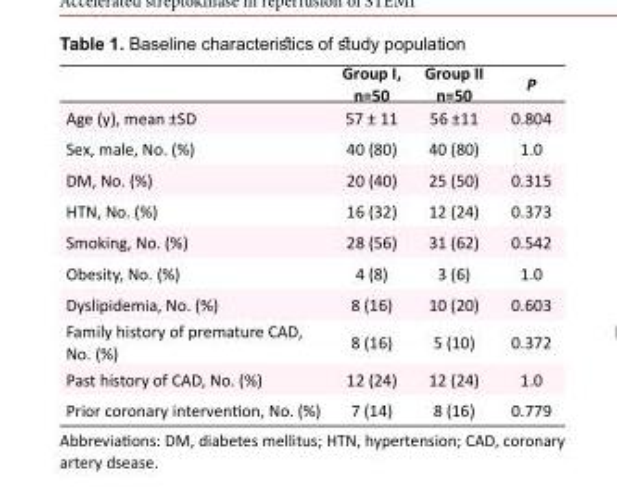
<table><thead><tr><td></td><td>Group I, n=50</td><td>Group II n=50</td><td>P</td></tr></thead><tbody><tr><td>Age (y), mean ±SD</td><td>57 ± 11</td><td>56 ±11</td><td>0.804</td></tr><tr><td>Sex, male, No. (%)</td><td>40 (80)</td><td>40 (80)</td><td>1.0</td></tr><tr><td>DM, No. (%)</td><td>20 (40)</td><td>25 (50)</td><td>0.315</td></tr><tr><td>HTN, No. (%)</td><td>16 (32)</td><td>12 (24)</td><td>0.373</td></tr><tr><td>Smoking, No. (%)</td><td>28 (56)</td><td>31 (62)</td><td>0.542</td></tr><tr><td>Obesity, No. (%)</td><td>4 (8)</td><td>3 (6)</td><td>1.0</td></tr><tr><td>Dyslipidemia, No. (%)</td><td>8 (16)</td><td>10 (20)</td><td>0.603</td></tr><tr><td>Family history of premature CAD, No. (%)</td><td>8 (16)</td><td>5 (10)</td><td>0.372</td></tr><tr><td>Past history of CAD, No. (%)</td><td>12 (24)</td><td>12 (24)</td><td>1.0</td></tr><tr><td>Prior coronary intervention, No. (%)</td><td>7 (14)</td><td>8 (16)</td><td>0.779</td></tr></tbody></table>